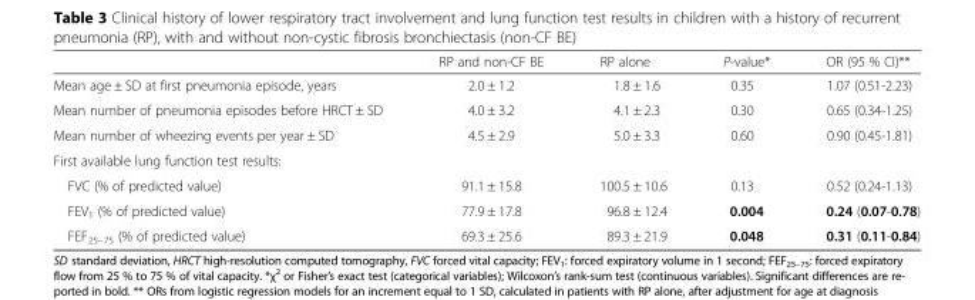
<table><thead><tr><td></td><td>RP and non-CF BE</td><td>RP alone</td><td>P-value*</td><td>OR (95 % CI)**</td></tr></thead><tbody><tr><td>Mean age ± SD at first pneumonia episode, years</td><td>2.0 ± 1.2</td><td>1.8 ± 1.6</td><td>0.35</td><td>1.07 (0.51-2.23)</td></tr><tr><td>Mean number of pneumonia episodes before HRCT ± SD</td><td>4.0 ± 3.2</td><td>4.1 ± 2.3</td><td>0.30</td><td>0.65 (0.34-1.25)</td></tr><tr><td>Mean number of wheezing events per year ± SD</td><td>4.5 ± 2.9</td><td>5.0 ± 3.3</td><td>0.60</td><td>0.90 (0.45-1.81)</td></tr><tr><td colspan="5">First available lung function test results:</td></tr><tr><td>FVC (% of predicted value)</td><td>91.1 ± 15.8</td><td>100.5 ± 10.6</td><td>0.13</td><td>0.52 (0.24-1.13)</td></tr><tr><td>FEV<sub>1</sub> (% of predicted value)</td><td>77.9 ± 17.8</td><td>96.8 ± 12.4</td><td>0.004</td><td>0.24 (0.07-0.78)</td></tr><tr><td>FEF<sub>25–75</sub> (% of predicted value)</td><td>69.3 ± 25.6</td><td>89.3 ± 21.9</td><td>0.048</td><td>0.31 (0.11-0.84)</td></tr></tbody></table>